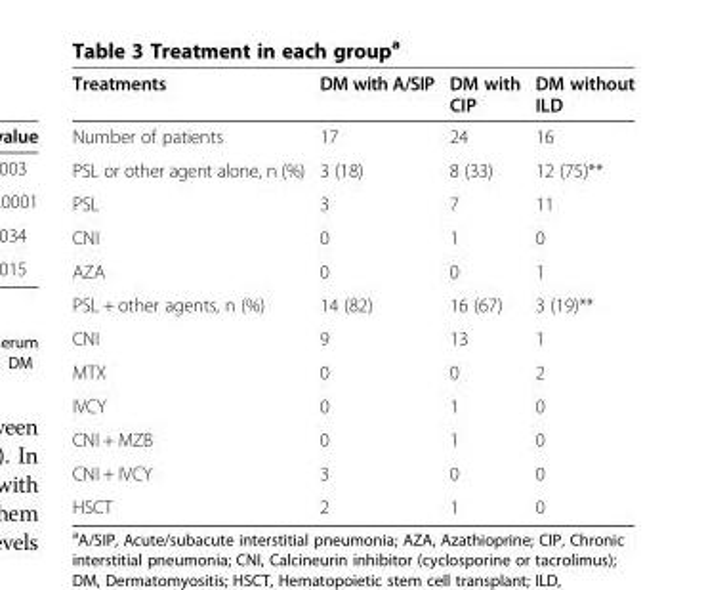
<table><thead><tr><td>Treatments</td><td>DM with A/SIP</td><td>DM with CIP</td><td>DM without ILD</td></tr></thead><tbody><tr><td>Number of patients</td><td>17</td><td>24</td><td>16</td></tr><tr><td>PSL or other agent alone, n (%)</td><td>3 (18)</td><td>8 (33)</td><td>12 (75)**</td></tr><tr><td>PSL</td><td>3</td><td>7</td><td>11</td></tr><tr><td>CNI</td><td>0</td><td>1</td><td>0</td></tr><tr><td>AZA</td><td>0</td><td>0</td><td>1</td></tr><tr><td>PSL + other agents, n (%)</td><td>14 (82)</td><td>16 (67)</td><td>3 (19)**</td></tr><tr><td>CNI</td><td>9</td><td>13</td><td>1</td></tr><tr><td>MTX</td><td>0</td><td>0</td><td>2</td></tr><tr><td>IVCY</td><td>0</td><td>1</td><td>0</td></tr><tr><td>CNI + MZB</td><td>0</td><td>1</td><td>0</td></tr><tr><td>CNI + IVCY</td><td>3</td><td>0</td><td>0</td></tr><tr><td>HSCT</td><td>2</td><td>1</td><td>0</td></tr></tbody></table>